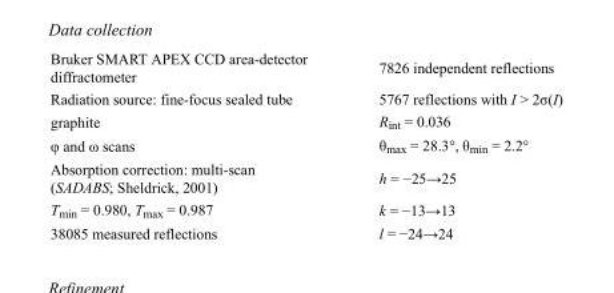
<table><tbody><tr><td>Bruker SMART APEX CCD area-detector diffractometer</td><td>7826 independent reflections</td></tr><tr><td>Radiation source: fine-focus sealed tube</td><td>5767 reflections with I &gt; 2σ(I)</td></tr><tr><td>graphite</td><td>R<sub>int</sub> = 0.036</td></tr><tr><td>φ and ω scans</td><td>θ<sub>max</sub> = 28.3°, θ<sub>min</sub> = 2.2°</td></tr><tr><td>Absorption correction: multi-scan (SADABS; Sheldrick, 2001)</td><td>h = −25→25</td></tr><tr><td>T<sub>min</sub> = 0.980, T<sub>max</sub> = 0.987</td><td>k = −13→13</td></tr><tr><td>38085 measured reflections</td><td>l = −24→24</td></tr></tbody></table>